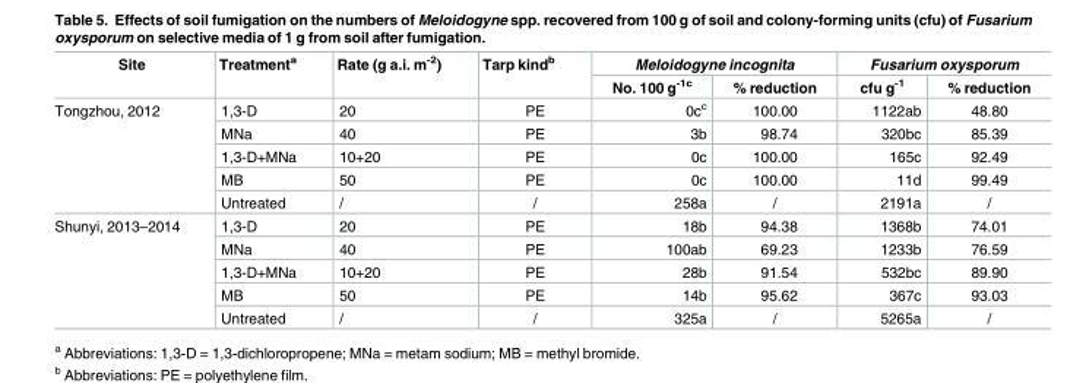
<table><thead><tr><td rowspan="2">Site</td><td rowspan="2">Treatment<sup>a</sup></td><td rowspan="2">Rate (g a.i. m<sup>-2</sup>)</td><td rowspan="2">Tarp kind<sup>b</sup></td><td colspan="2">Meloidogyne incognita</td><td colspan="2">Fusarium oxysporum</td></tr><tr><td>No. 100 g<sup>-1c</sup></td><td>% reduction</td><td>cfu g<sup>-1</sup></td><td>% reduction</td></tr></thead><tbody><tr><td rowspan="5">Tongzhou, 2012</td><td>1,3-D</td><td>20</td><td>PE</td><td>0c<sup>c</sup></td><td>100.00</td><td>1122ab</td><td>48.80</td></tr><tr><td>MNa</td><td>40</td><td>PE</td><td>3b</td><td>98.74</td><td>320bc</td><td>85.39</td></tr><tr><td>1,3-D+MNa</td><td>10+20</td><td>PE</td><td>0c</td><td>100.00</td><td>165c</td><td>92.49</td></tr><tr><td>MB</td><td>50</td><td>PE</td><td>0c</td><td>100.00</td><td>11d</td><td>99.49</td></tr><tr><td>Untreated</td><td>/</td><td>/</td><td>258a</td><td>/</td><td>2191a</td><td>/</td></tr><tr><td rowspan="5">Shunyi, 2013–2014</td><td>1,3-D</td><td>20</td><td>PE</td><td>18b</td><td>94.38</td><td>1368b</td><td>74.01</td></tr><tr><td>MNa</td><td>40</td><td>PE</td><td>100ab</td><td>69.23</td><td>1233b</td><td>76.59</td></tr><tr><td>1,3-D+MNa</td><td>10+20</td><td>PE</td><td>28b</td><td>91.54</td><td>532bc</td><td>89.90</td></tr><tr><td>MB</td><td>50</td><td>PE</td><td>14b</td><td>95.62</td><td>367c</td><td>93.03</td></tr><tr><td>Untreated</td><td>/</td><td>/</td><td>325a</td><td>/</td><td>5265a</td><td>/</td></tr></tbody></table>